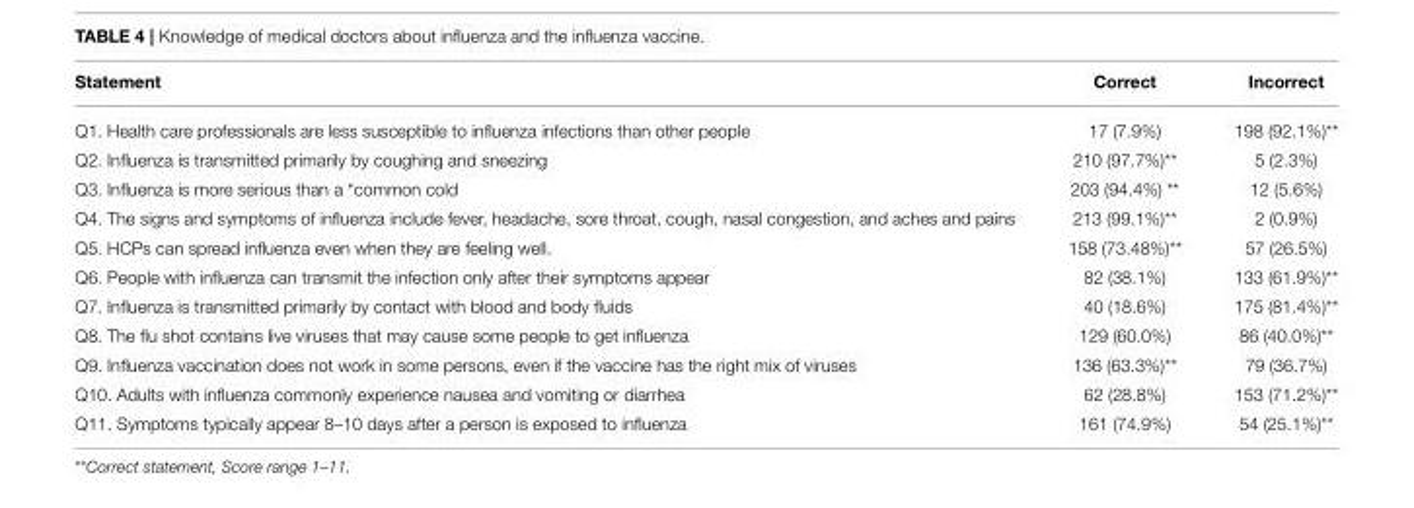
<table><thead><tr><td>Statement</td><td>Correct</td><td>Incorrect</td></tr></thead><tbody><tr><td>Q1. Health care professionals are less susceptible to influenza infections than other people</td><td>17 (7.9%)</td><td>198 (92.1%)**</td></tr><tr><td>Q2. Influenza is transmitted primarily by coughing and sneezing</td><td>210 (97.7%)**</td><td>5 (2.3%)</td></tr><tr><td>Q3. Influenza is more serious than a “common cold</td><td>203 (94.4%) **</td><td>12 (5.6%)</td></tr><tr><td>Q4. The signs and symptoms of influenza include fever, headache, sore throat, cough, nasal congestion, and aches and pains</td><td>213 (99.1%)**</td><td>2 (0.9%)</td></tr><tr><td>Q5. HCPs can spread influenza even when they are feeling well.</td><td>158 (73.48%)**</td><td>57 (26.5%)</td></tr><tr><td>Q6. People with influenza can transmit the infection only after their symptoms appear</td><td>82 (38.1%)</td><td>133 (61.9%)**</td></tr><tr><td>Q7. Influenza is transmitted primarily by contact with blood and body fluids</td><td>40 (18.6%)</td><td>175 (81.4%)**</td></tr><tr><td>Q8. The flu shot contains live viruses that may cause some people to get influenza</td><td>129 (60.0%)</td><td>86 (40.0%)**</td></tr><tr><td>Q9. Influenza vaccination does not work in some persons, even if the vaccine has the right mix of viruses</td><td>136 (63.3%)**</td><td>79 (36.7%)</td></tr><tr><td>Q10. Adults with influenza commonly experience nausea and vomiting or diarrhea</td><td>62 (28.8%)</td><td>153 (71.2%)**</td></tr><tr><td>Q11. Symptoms typically appear 8–10 days after a person is exposed to influenza</td><td>161 (74.9%)</td><td>54 (25.1%)**</td></tr></tbody></table>